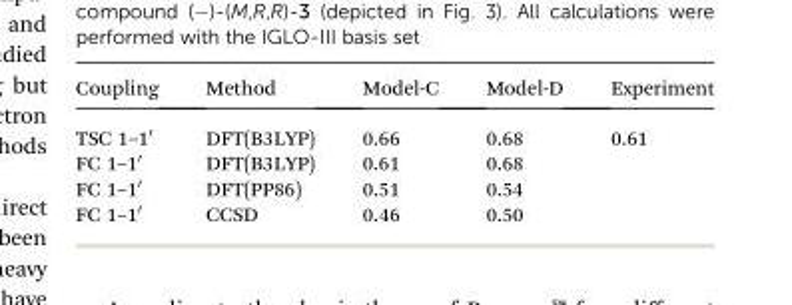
<table><thead><tr><td>Coupling</td><td>Method</td><td>Model-C</td><td>Model-D</td><td>Experiment</td></tr></thead><tbody><tr><td>TSC 1–1′</td><td>DFT(B3LYP)</td><td>0.66</td><td>0.68</td><td>0.61</td></tr><tr><td>FC 1–1′</td><td>DFT(B3LYP)</td><td>0.61</td><td>0.68</td><td></td></tr><tr><td>FC 1–1′</td><td>DFT(PP86)</td><td>0.51</td><td>0.54</td><td></td></tr><tr><td>FC 1–1′</td><td>CCSD</td><td>0.46</td><td>0.50</td><td></td></tr></tbody></table>